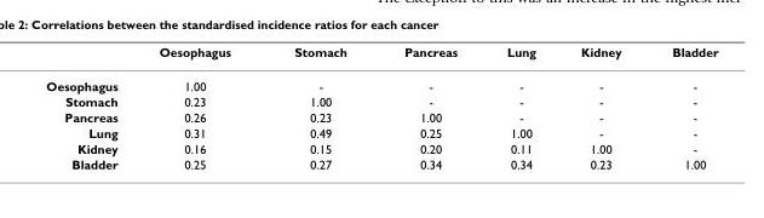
<table><thead><tr><td></td><td>Oesophagus</td><td>Stomach</td><td>Pancreas</td><td>Lung</td><td>Kidney</td><td>Bladder</td></tr></thead><tbody><tr><td>Oesophagus</td><td>1.00</td><td>-</td><td>-</td><td>-</td><td>-</td><td>-</td></tr><tr><td>Stomach</td><td>0.23</td><td>1.00</td><td>-</td><td>-</td><td>-</td><td>-</td></tr><tr><td>Pancreas</td><td>0.26</td><td>0.23</td><td>1.00</td><td>-</td><td>-</td><td>-</td></tr><tr><td>Lung</td><td>0.31</td><td>0.49</td><td>0.25</td><td>1.00</td><td>-</td><td>-</td></tr><tr><td>Kidney</td><td>0.16</td><td>0.15</td><td>0.20</td><td>0.11</td><td>1.00</td><td>-</td></tr><tr><td>Bladder</td><td>0.25</td><td>0.27</td><td>0.34</td><td>0.34</td><td>0.23</td><td>1.00</td></tr></tbody></table>